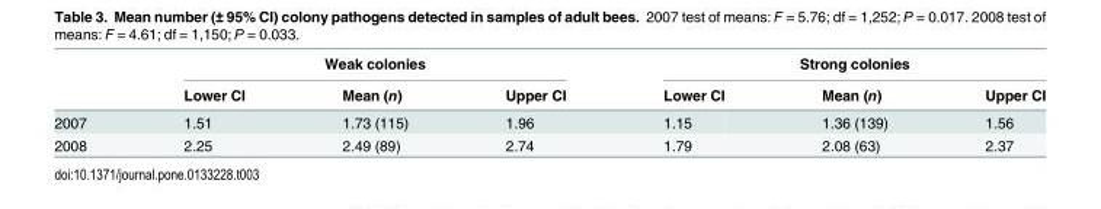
<table><thead><tr><td rowspan="2"></td><td colspan="3">Weak colonies</td><td colspan="3">Strong colonies</td></tr><tr><td>Lower CI</td><td>Mean (n)</td><td>Upper CI</td><td>Lower CI</td><td>Mean (n)</td><td>Upper CI</td></tr></thead><tbody><tr><td>2007</td><td>1.51</td><td>1.73 (115)</td><td>1.96</td><td>1.15</td><td>1.36 (139)</td><td>1.56</td></tr><tr><td>2008</td><td>2.25</td><td>2.49 (89)</td><td>2.74</td><td>1.79</td><td>2.08 (63)</td><td>2.37</td></tr></tbody></table>